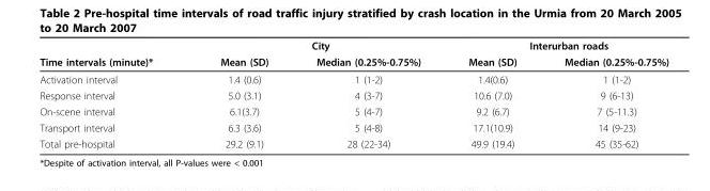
<table><thead><tr><td rowspan="2">Time intervals (minute)*</td><td colspan="2">City</td><td colspan="2">Interurban roads</td></tr><tr><td>Mean (SD)</td><td>Median (0.25%-0.75%)</td><td>Mean (SD)</td><td>Median (0.25%-0.75%)</td></tr></thead><tbody><tr><td>Activation interval</td><td>1.4 (0.6)</td><td>1 (1-2)</td><td>1.4(0.6)</td><td>1 (1-2)</td></tr><tr><td>Response interval</td><td>5.0 (3.1)</td><td>4 (3-7)</td><td>10.6 (7.0)</td><td>9 (6-13)</td></tr><tr><td>On-scene interval</td><td>6.1(3.7)</td><td>5 (4-7)</td><td>9.2 (6.7)</td><td>7 (5-11.3)</td></tr><tr><td>Transport interval</td><td>6.3 (3.6)</td><td>5 (4-8)</td><td>17.1(10.9)</td><td>14 (9-23)</td></tr><tr><td>Total pre-hospital</td><td>29.2 (9.1)</td><td>28 (22-34)</td><td>49.9 (19.4)</td><td>45 (35-62)</td></tr></tbody></table>